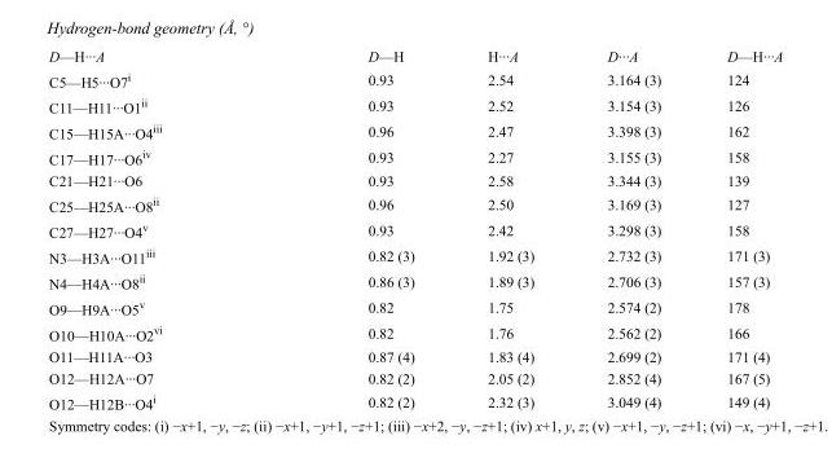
<table><tbody><tr><td>D—H···A</td><td>D—H</td><td>H···A</td><td>D···A</td><td>D—H···A</td></tr><tr><td>C5—H5···O7<sup>i</sup></td><td>0.93</td><td>2.54</td><td>3.164 (3)</td><td>124</td></tr><tr><td>C11—H11···O1<sup>ii</sup></td><td>0.93</td><td>2.52</td><td>3.154 (3)</td><td>126</td></tr><tr><td>C15—H15A···O4<sup>iii</sup></td><td>0.96</td><td>2.47</td><td>3.398 (3)</td><td>162</td></tr><tr><td>C17—H17···O6<sup>iv</sup></td><td>0.93</td><td>2.27</td><td>3.155 (3)</td><td>158</td></tr><tr><td>C21—H21···O6</td><td>0.93</td><td>2.58</td><td>3.344 (3)</td><td>139</td></tr><tr><td>C25—H25A···O8<sup>ii</sup></td><td>0.96</td><td>2.50</td><td>3.169 (3)</td><td>127</td></tr><tr><td>C27—H27···O4<sup>v</sup></td><td>0.93</td><td>2.42</td><td>3.298 (3)</td><td>158</td></tr><tr><td>N3—H3A···O11<sup>iii</sup></td><td>0.82 (3)</td><td>1.92 (3)</td><td>2.732 (3)</td><td>171 (3)</td></tr><tr><td>N4—H4A···O8<sup>ii</sup></td><td>0.86 (3)</td><td>1.89 (3)</td><td>2.706 (3)</td><td>157 (3)</td></tr><tr><td>O9—H9A···O5<sup>v</sup></td><td>0.82</td><td>1.75</td><td>2.574 (2)</td><td>178</td></tr><tr><td>O10—H10A···O2<sup>vi</sup></td><td>0.82</td><td>1.76</td><td>2.562 (2)</td><td>166</td></tr><tr><td>O11—H11A···O3</td><td>0.87 (4)</td><td>1.83 (4)</td><td>2.699 (2)</td><td>171 (4)</td></tr><tr><td>O12—H12A···O7</td><td>0.82 (2)</td><td>2.05 (2)</td><td>2.852 (4)</td><td>167 (5)</td></tr><tr><td>O12—H12B···O4<sup>i</sup></td><td>0.82 (2)</td><td>2.32 (3)</td><td>3.049 (4)</td><td>149 (4)</td></tr></tbody></table>